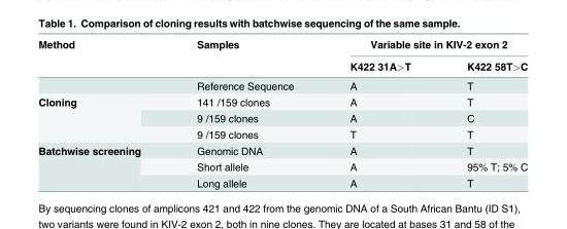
<table><thead><tr><td rowspan="2">Method</td><td rowspan="2">Samples</td><td colspan="2">Variable site in KIV-2 exon 2</td></tr><tr><td>K422 31A&gt;T</td><td>K422 58T&gt;C</td></tr></thead><tbody><tr><td></td><td>Reference Sequence</td><td>A</td><td>T</td></tr><tr><td rowspan="3">Cloning</td><td>141 /159 clones</td><td>A</td><td>T</td></tr><tr><td>9 /159 clones</td><td>A</td><td>C</td></tr><tr><td>9 /159 clones</td><td>T</td><td>T</td></tr><tr><td rowspan="3">Batchwise screening</td><td>Genomic DNA</td><td>A</td><td>T</td></tr><tr><td>Short allele</td><td>A</td><td>95% T; 5% C</td></tr><tr><td>Long allele</td><td>A</td><td>T</td></tr></tbody></table>